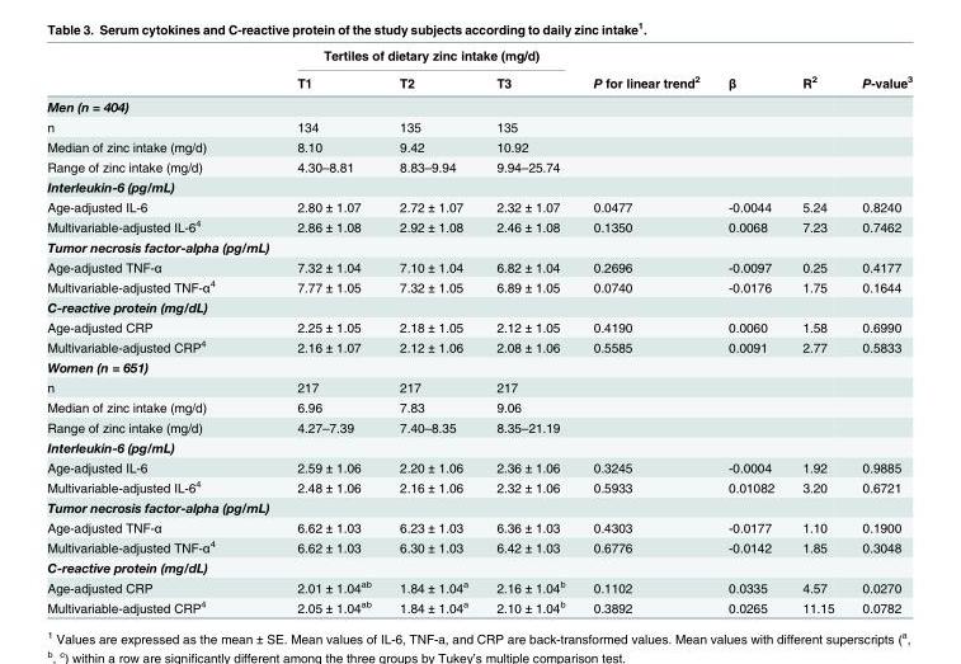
<table><thead><tr><td rowspan="2"></td><td colspan="3">Tertiles of dietary zinc intake (mg/d)</td><td rowspan="2">P for linear trend<sup>2</sup></td><td rowspan="2">β</td><td rowspan="2">R<sup>2</sup></td><td rowspan="2">P-value<sup>3</sup></td></tr><tr><td>T1</td><td>T2</td><td>T3</td></tr></thead><tbody><tr><td colspan="8">Men (n = 404)</td></tr><tr><td>n</td><td>134</td><td>135</td><td>135</td><td></td><td></td><td></td><td></td></tr><tr><td>Median of zinc intake (mg/d)</td><td>8.10</td><td>9.42</td><td>10.92</td><td></td><td></td><td></td><td></td></tr><tr><td>Range of zinc intake (mg/d)</td><td>4.30–8.81</td><td>8.83–9.94</td><td>9.94–25.74</td><td></td><td></td><td></td><td></td></tr><tr><td colspan="8">Interleukin-6 (pg/mL)</td></tr><tr><td>Age-adjusted IL-6</td><td>2.80 ± 1.07</td><td>2.72 ± 1.07</td><td>2.32 ± 1.07</td><td>0.0477</td><td>-0.0044</td><td>5.24</td><td>0.8240</td></tr><tr><td>Multivariable-adjusted IL-6<sup>4</sup></td><td>2.86 ± 1.08</td><td>2.92 ± 1.08</td><td>2.46 ± 1.08</td><td>0.1350</td><td>0.0068</td><td>7.23</td><td>0.7462</td></tr><tr><td colspan="8">Tumor necrosis factor-alpha (pg/mL)</td></tr><tr><td>Age-adjusted TNF-α</td><td>7.32 ± 1.04</td><td>7.10 ± 1.04</td><td>6.82 ± 1.04</td><td>0.2696</td><td>-0.0097</td><td>0.25</td><td>0.4177</td></tr><tr><td>Multivariable-adjusted TNF-α<sup>4</sup></td><td>7.77 ± 1.05</td><td>7.32 ± 1.05</td><td>6.89 ± 1.05</td><td>0.0740</td><td>-0.0176</td><td>1.75</td><td>0.1644</td></tr><tr><td colspan="8">C-reactive protein (mg/dL)</td></tr><tr><td>Age-adjusted CRP</td><td>2.25 ± 1.05</td><td>2.18 ± 1.05</td><td>2.12 ± 1.05</td><td>0.4190</td><td>0.0060</td><td>1.58</td><td>0.6990</td></tr><tr><td>Multivariable-adjusted CRP<sup>4</sup></td><td>2.16 ± 1.07</td><td>2.12 ± 1.06</td><td>2.08 ± 1.06</td><td>0.5585</td><td>0.0091</td><td>2.77</td><td>0.5833</td></tr><tr><td colspan="8">Women (n = 651)</td></tr><tr><td>n</td><td>217</td><td>217</td><td>217</td><td></td><td></td><td></td><td></td></tr><tr><td>Median of zinc intake (mg/d)</td><td>6.96</td><td>7.83</td><td>9.06</td><td></td><td></td><td></td><td></td></tr><tr><td>Range of zinc intake (mg/d)</td><td>4.27–7.39</td><td>7.40–8.35</td><td>8.35–21.19</td><td></td><td></td><td></td><td></td></tr><tr><td colspan="8">Interleukin-6 (pg/mL)</td></tr><tr><td>Age-adjusted IL-6</td><td>2.59 ± 1.06</td><td>2.20 ± 1.06</td><td>2.36 ± 1.06</td><td>0.3245</td><td>-0.0004</td><td>1.92</td><td>0.9885</td></tr><tr><td>Multivariable-adjusted IL-6<sup>4</sup></td><td>2.48 ± 1.06</td><td>2.16 ± 1.06</td><td>2.32 ± 1.06</td><td>0.5933</td><td>0.01082</td><td>3.20</td><td>0.6721</td></tr><tr><td colspan="8">Tumor necrosis factor-alpha (pg/mL)</td></tr><tr><td>Age-adjusted TNF-α</td><td>6.62 ± 1.03</td><td>6.23 ± 1.03</td><td>6.36 ± 1.03</td><td>0.4303</td><td>-0.0177</td><td>1.10</td><td>0.1900</td></tr><tr><td>Multivariable-adjusted TNF-α<sup>4</sup></td><td>6.62 ± 1.03</td><td>6.30 ± 1.03</td><td>6.42 ± 1.03</td><td>0.6776</td><td>-0.0142</td><td>1.85</td><td>0.3048</td></tr><tr><td colspan="8">C-reactive protein (mg/dL)</td></tr><tr><td>Age-adjusted CRP</td><td>2.01 ± 1.04<sup>ab</sup></td><td>1.84 ± 1.04<sup>a</sup></td><td>2.16 ± 1.04<sup>b</sup></td><td>0.1102</td><td>0.0335</td><td>4.57</td><td>0.0270</td></tr><tr><td>Multivariable-adjusted CRP<sup>4</sup></td><td>2.05 ± 1.04<sup>ab</sup></td><td>1.84 ± 1.04<sup>a</sup></td><td>2.10 ± 1.04<sup>b</sup></td><td>0.3892</td><td>0.0265</td><td>11.15</td><td>0.0782</td></tr></tbody></table>